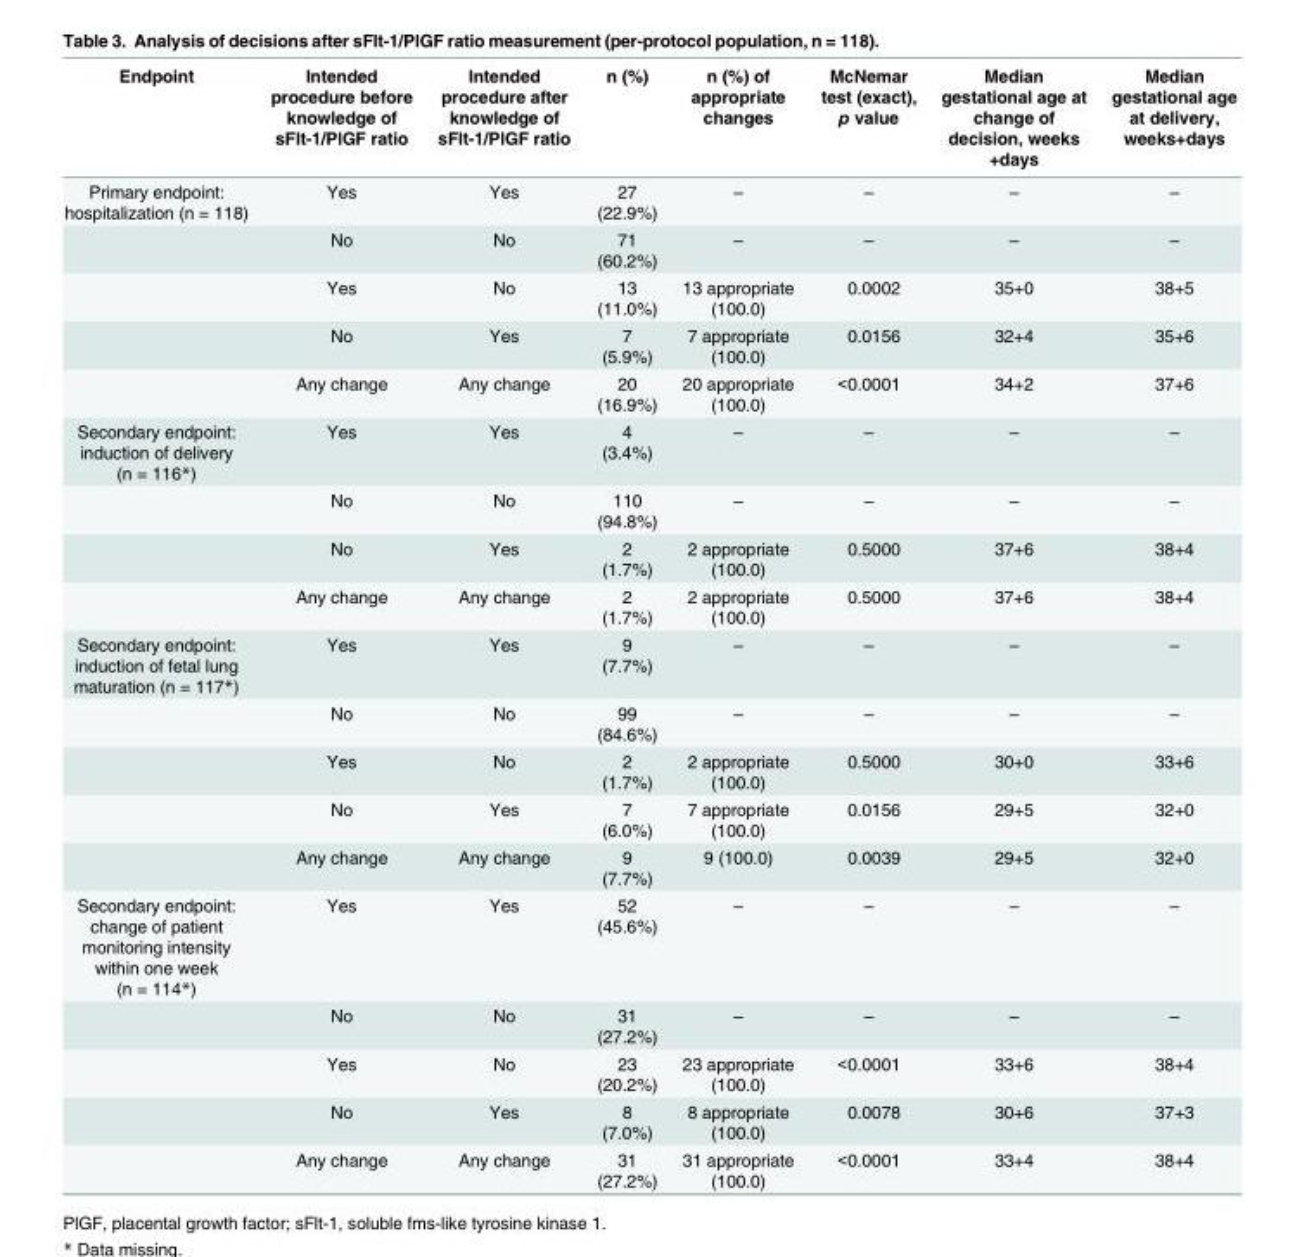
<table><thead><tr><td>Endpoint</td><td>Intended procedure before knowledge of sFlt-1/PlGF ratio</td><td>Intended procedure after knowledge of sFlt-1/PlGF ratio</td><td>n (%)</td><td>n (%) of appropriate changes</td><td>McNemar test (exact), p value</td><td>Median gestational age at change of decision, weeks +days</td><td>Median gestational age at delivery, weeks+days</td></tr></thead><tbody><tr><td rowspan="5">Primary endpoint: hospitalization (n = 118)</td><td>Yes</td><td>Yes</td><td>27 (22.9%)</td><td>–</td><td>–</td><td>–</td><td>–</td></tr><tr><td>No</td><td>No</td><td>71 (60.2%)</td><td>–</td><td>–</td><td>–</td><td>–</td></tr><tr><td>Yes</td><td>No</td><td>13 (11.0%)</td><td>13 appropriate (100.0)</td><td>0.0002</td><td>35+0</td><td>38+5</td></tr><tr><td>No</td><td>Yes</td><td>7 (5.9%)</td><td>7 appropriate (100.0)</td><td>0.0156</td><td>32+4</td><td>35+6</td></tr><tr><td>Any change</td><td>Any change</td><td>20 (16.9%)</td><td>20 appropriate (100.0)</td><td>&lt;0.0001</td><td>34+2</td><td>37+6</td></tr><tr><td rowspan="4">Secondary endpoint: induction of delivery (n = 116*)</td><td>Yes</td><td>Yes</td><td>4 (3.4%)</td><td>–</td><td>–</td><td>–</td><td>–</td></tr><tr><td>No</td><td>No</td><td>110 (94.8%)</td><td>–</td><td>–</td><td>–</td><td>–</td></tr><tr><td>No</td><td>Yes</td><td>2 (1.7%)</td><td>2 appropriate (100.0)</td><td>0.5000</td><td>37+6</td><td>38+4</td></tr><tr><td>Any change</td><td>Any change</td><td>2 (1.7%)</td><td>2 appropriate (100.0)</td><td>0.5000</td><td>37+6</td><td>38+4</td></tr><tr><td rowspan="5">Secondary endpoint: induction of fetal lung maturation (n = 117*)</td><td>Yes</td><td>Yes</td><td>9 (7.7%)</td><td>–</td><td>–</td><td>–</td><td>–</td></tr><tr><td>No</td><td>No</td><td>99 (84.6%)</td><td>–</td><td>–</td><td>–</td><td>–</td></tr><tr><td>Yes</td><td>No</td><td>2 (1.7%)</td><td>2 appropriate (100.0)</td><td>0.5000</td><td>30+0</td><td>33+6</td></tr><tr><td>No</td><td>Yes</td><td>7 (6.0%)</td><td>7 appropriate (100.0)</td><td>0.0156</td><td>29+5</td><td>32+0</td></tr><tr><td>Any change</td><td>Any change</td><td>9 (7.7%)</td><td>9 (100.0)</td><td>0.0039</td><td>29+5</td><td>32+0</td></tr><tr><td rowspan="5">Secondary endpoint: change of patient monitoring intensity within one week (n = 114*)</td><td>Yes</td><td>Yes</td><td>52 (45.6%)</td><td>–</td><td>–</td><td>–</td><td>–</td></tr><tr><td>No</td><td>No</td><td>31 (27.2%)</td><td>–</td><td>–</td><td>–</td><td>–</td></tr><tr><td>Yes</td><td>No</td><td>23 (20.2%)</td><td>23 appropriate (100.0)</td><td>&lt;0.0001</td><td>33+6</td><td>38+4</td></tr><tr><td>No</td><td>Yes</td><td>8 (7.0%)</td><td>8 appropriate (100.0)</td><td>0.0078</td><td>30+6</td><td>37+3</td></tr><tr><td>Any change</td><td>Any change</td><td>31 (27.2%)</td><td>31 appropriate (100.0)</td><td>&lt;0.0001</td><td>33+4</td><td>38+4</td></tr></tbody></table>